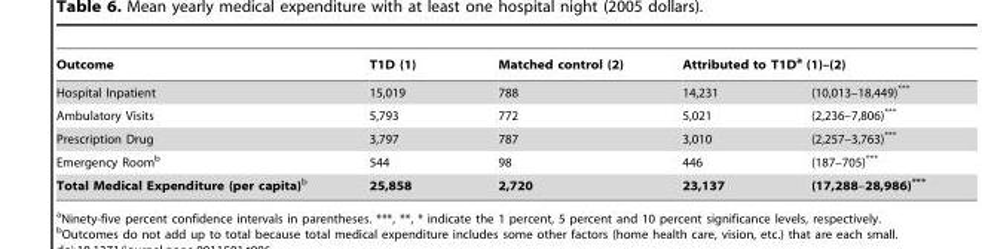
<table><thead><tr><td rowspan="2">Outcome Hospital Inpatient</td><td rowspan="2">T1D (1) 15,019</td><td rowspan="2">Matched control (2) 788</td><td colspan="2">Attributed to T1D<sup>a</sup> (1)–(2)</td></tr><tr><td>14,231</td><td>(10,013–18,449)***</td></tr></thead><tbody><tr><td>Ambulatory Visits</td><td>5,793</td><td>772</td><td>5,021</td><td>(2,236–7,806)***</td></tr><tr><td>Prescription Drug</td><td>3,797</td><td>787</td><td>3,010</td><td>(2,257–3,763)***</td></tr><tr><td>Emergency Room<sup>b</sup></td><td>544</td><td>98</td><td>446</td><td>(187–705)***</td></tr><tr><td>Total Medical Expenditure (per capita)b</td><td>25,858</td><td>2,720</td><td>23,137</td><td>(17,288–28,986)***</td></tr></tbody></table>